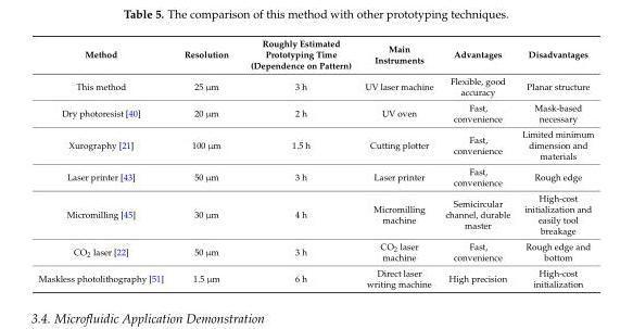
<table><thead><tr><td>Method</td><td>Resolution</td><td>Roughly Estimated Prototyping Time (Dependence on Pattern)</td><td>Main Instruments</td><td>Advantages</td><td>Disadvantages</td></tr></thead><tbody><tr><td>This method</td><td>25 µm</td><td>3 h</td><td>UV laser machine</td><td>Flexible, good accuracy</td><td>Planar structure</td></tr><tr><td>Dry photoresist [40]</td><td>20 µm</td><td>2 h</td><td>UV oven</td><td>Fast, convenience</td><td>Mask-based necessary</td></tr><tr><td>Xurography [21]</td><td>100 µm</td><td>1.5 h</td><td>Cutting plotter</td><td>Fast, convenience</td><td>Limited minimum dimension and materials</td></tr><tr><td>Laser printer [43]</td><td>50 µm</td><td>3 h</td><td>Laser printer</td><td>Fast, convenience</td><td>Rough edge</td></tr><tr><td>Micromilling [45]</td><td>30 µm</td><td>4 h</td><td>Micromilling machine</td><td>Semicircular channel, durable master</td><td>High-cost initialization and easily tool breakage</td></tr><tr><td>CO<sub>2</sub> laser [22]</td><td>50 µm</td><td>3 h</td><td>CO<sub>2</sub> laser machine</td><td>Fast, convenience</td><td>Rough edge and bottom</td></tr><tr><td>Maskless photolithography [51]</td><td>1.5 µm</td><td>6 h</td><td>Direct laser writing machine</td><td>High precision</td><td>High-cost initialization</td></tr></tbody></table>